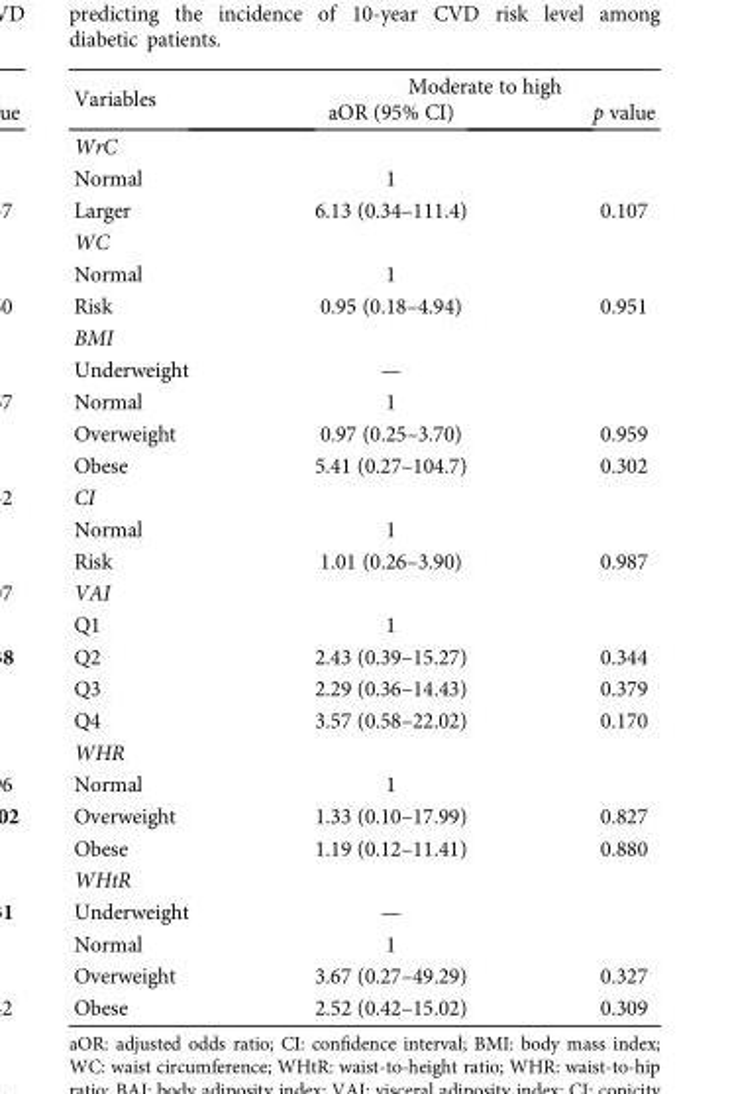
<table><thead><tr><td rowspan="2">Variables</td><td colspan="2">Moderate to high</td></tr><tr><td>aOR (95% CI)</td><td>p value</td></tr></thead><tbody><tr><td colspan="3">WrC</td></tr><tr><td>Normal</td><td>1</td><td></td></tr><tr><td>Larger</td><td>6.13 (0.34–111.4)</td><td>0.107</td></tr><tr><td colspan="3">WC</td></tr><tr><td>Normal</td><td>1</td><td></td></tr><tr><td>Risk</td><td>0.95 (0.18–4.94)</td><td>0.951</td></tr><tr><td colspan="3">BMI</td></tr><tr><td>Underweight</td><td>—</td><td></td></tr><tr><td>Normal</td><td>1</td><td></td></tr><tr><td>Overweight</td><td>0.97 (0.25–3.70)</td><td>0.959</td></tr><tr><td>Obese</td><td>5.41 (0.27–104.7)</td><td>0.302</td></tr><tr><td colspan="3">CI</td></tr><tr><td>Normal</td><td>1</td><td></td></tr><tr><td>Risk</td><td>1.01 (0.26–3.90)</td><td>0.987</td></tr><tr><td colspan="3">VAI</td></tr><tr><td>Q1</td><td>1</td><td></td></tr><tr><td>Q2</td><td>2.43 (0.39–15.27)</td><td>0.344</td></tr><tr><td>Q3</td><td>2.29 (0.36–14.43)</td><td>0.379</td></tr><tr><td>Q4</td><td>3.57 (0.58–22.02)</td><td>0.170</td></tr><tr><td colspan="3">WHR</td></tr><tr><td>Normal</td><td>1</td><td></td></tr><tr><td>Overweight</td><td>1.33 (0.10–17.99)</td><td>0.827</td></tr><tr><td>Obese</td><td>1.19 (0.12–11.41)</td><td>0.880</td></tr><tr><td colspan="3">WHtR</td></tr><tr><td>Underweight</td><td>—</td><td></td></tr><tr><td>Normal</td><td>1</td><td></td></tr><tr><td>Overweight</td><td>3.67 (0.27–49.29)</td><td>0.327</td></tr><tr><td>Obese</td><td>2.52 (0.42–15.02)</td><td>0.309</td></tr></tbody></table>